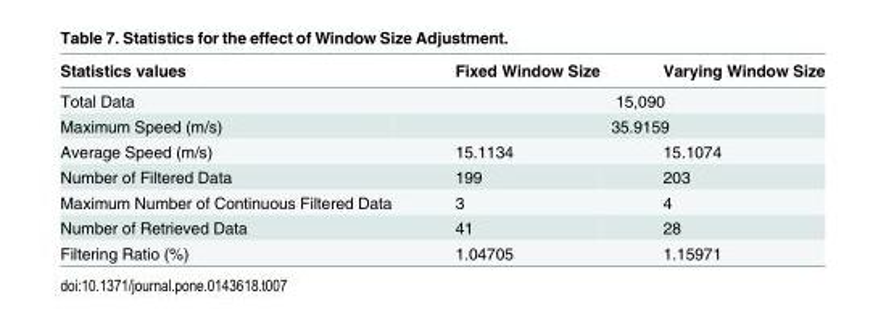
<table><thead><tr><td>Statistics values</td><td>Fixed Window Size</td><td>Varying Window Size</td></tr></thead><tbody><tr><td>Total Data</td><td colspan="2">15,090</td></tr><tr><td>Maximum Speed (m/s)</td><td colspan="2">35.9159</td></tr><tr><td>Average Speed (m/s)</td><td>15.1134</td><td>15.1074</td></tr><tr><td>Number of Filtered Data</td><td>199</td><td>203</td></tr><tr><td>Maximum Number of Continuous Filtered Data</td><td>3</td><td>4</td></tr><tr><td>Number of Retrieved Data</td><td>41</td><td>28</td></tr><tr><td>Filtering Ratio (%)</td><td>1.04705</td><td>1.15971</td></tr></tbody></table>